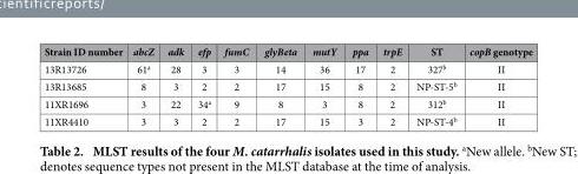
<table><thead><tr><td>Strain ID number</td><td>abcZ</td><td>adk</td><td>efp</td><td>fumC</td><td>glyBeta</td><td>mutY</td><td>ppa</td><td>trpE</td><td>ST</td><td>copB genotype</td></tr></thead><tbody><tr><td>13R13726</td><td>61<sup>a</sup></td><td>28</td><td>3</td><td>3</td><td>14</td><td>36</td><td>17</td><td>2</td><td>327<sup>b</sup></td><td>II</td></tr><tr><td>13R13685</td><td>8</td><td>3</td><td>2</td><td>2</td><td>17</td><td>15</td><td>8</td><td>2</td><td>NP-ST-5<sup>b</sup></td><td>II</td></tr><tr><td>11XR1696</td><td>3</td><td>22</td><td>34<sup>a</sup></td><td>9</td><td>8</td><td>3</td><td>8</td><td>2</td><td>312<sup>b</sup></td><td>II</td></tr><tr><td>11XR4410</td><td>3</td><td>3</td><td>2</td><td>2</td><td>17</td><td>15</td><td>3</td><td>2</td><td>NP-ST-4<sup>b</sup></td><td>II</td></tr></tbody></table>